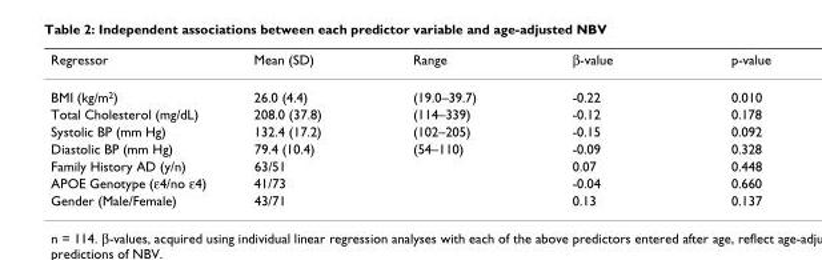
<table><thead><tr><td>Regressor</td><td>Mean (SD)</td><td>Range</td><td>β-value</td><td>p-value</td></tr></thead><tbody><tr><td>BMI (kg/m<sup>2</sup>)</td><td>26.0 (4.4)</td><td>(19.0–39.7)</td><td>-0.22</td><td>0.010</td></tr><tr><td>Total Cholesterol (mg/dL)</td><td>208.0 (37.8)</td><td>(114–339)</td><td>-0.12</td><td>0.178</td></tr><tr><td>Systolic BP (mm Hg)</td><td>132.4 (17.2)</td><td>(102–205)</td><td>-0.15</td><td>0.092</td></tr><tr><td>Diastolic BP (mm Hg)</td><td>79.4 (10.4)</td><td>(54–110)</td><td>-0.09</td><td>0.328</td></tr><tr><td>Family History AD (y/n)</td><td>63/51</td><td></td><td>0.07</td><td>0.448</td></tr><tr><td>APOE Genotype (ε4/no ε4)</td><td>41/73</td><td></td><td>-0.04</td><td>0.660</td></tr><tr><td>Gender (Male/Female)</td><td>43/71</td><td></td><td>0.13</td><td>0.137</td></tr></tbody></table>